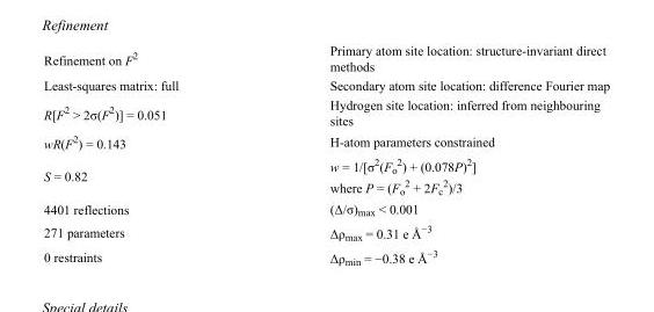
<table><tbody><tr><td>Refinement on F<sup>2</sup></td><td>Primary atom site location: structure-invariant direct methods</td></tr><tr><td>Least-squares matrix: full</td><td>Secondary atom site location: difference Fourier map</td></tr><tr><td>R[F<sup>2</sup> &gt; 2σ(F<sup>2</sup>)] = 0.051</td><td>Hydrogen site location: inferred from neighbouring sites</td></tr><tr><td>wR(F<sup>2</sup>) = 0.143</td><td>H-atom parameters constrained</td></tr><tr><td>S = 0.82</td><td>w = 1/[σ<sup>2</sup>(F<sub>o</sub> <sup>2</sup>) + (0.078P)<sup>2</sup>] where P = (F<sub>o</sub> <sup>2</sup> + 2F<sub>c</sub> <sup>2</sup>)/3</td></tr><tr><td>4401 reflections</td><td>(Δ/σ)<sub>max</sub> &lt; 0.001</td></tr><tr><td>271 parameters</td><td>Δρ<sub>max</sub> = 0.31 e Å<sup>−3</sup></td></tr><tr><td>0 restraints</td><td>Δρ<sub>min</sub> = −0.38 e Å<sup>−3</sup></td></tr></tbody></table>